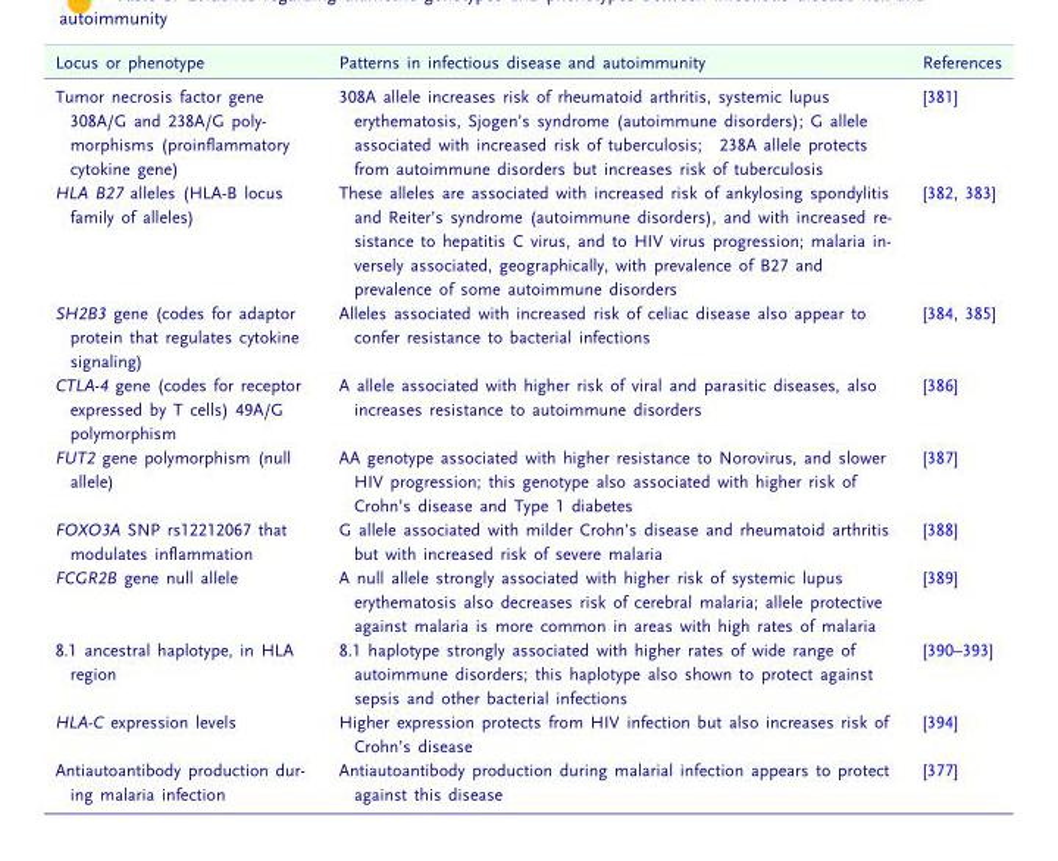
<table><thead><tr><td>Locus or phenotype</td><td>Patterns in infectious disease and autoimmunity</td><td>References</td></tr></thead><tbody><tr><td>Tumor necrosis factor gene 308A/G and 238A/G poly- morphisms (proinflammatory cytokine gene)</td><td>308A allele increases risk of rheumatoid arthritis, systemic lupus erythematosis, Sjogen’s syndrome (autoimmune disorders); G allele associated with increased risk of tuberculosis; 238A allele protects from autoimmune disorders but increases risk of tuberculosis</td><td>[381]</td></tr><tr><td>HLA B27 alleles (HLA-B locus family of alleles)</td><td>These alleles are associated with increased risk of ankylosing spondylitis and Reiter’s syndrome (autoimmune disorders), and with increased re- sistance to hepatitis C virus, and to HIV virus progression; malaria in- versely associated, geographically, with prevalence of B27 and prevalence of some autoimmune disorders</td><td>[382, 383]</td></tr><tr><td>SH2B3 gene (codes for adaptor protein that regulates cytokine signaling)</td><td>Alleles associated with increased risk of celiac disease also appear to confer resistance to bacterial infections</td><td>[384, 385]</td></tr><tr><td>CTLA-4 gene (codes for receptor expressed by T cells) 49A/G polymorphism</td><td>A allele associated with higher risk of viral and parasitic diseases, also increases resistance to autoimmune disorders</td><td>[386]</td></tr><tr><td>FUT2 gene polymorphism (null allele)</td><td>AA genotype associated with higher resistance to Norovirus, and slower HIV progression; this genotype also associated with higher risk of Crohn’s disease and Type 1 diabetes</td><td>[387]</td></tr><tr><td>FOXO3A SNP rs12212067 that modulates inflammation</td><td>G allele associated with milder Crohn’s disease and rheumatoid arthritis but with increased risk of severe malaria</td><td>[388]</td></tr><tr><td>FCGR2B gene null allele</td><td>A null allele strongly associated with higher risk of systemic lupus erythematosis also decreases risk of cerebral malaria; allele protective against malaria is more common in areas with high rates of malaria</td><td>[389]</td></tr><tr><td>8.1 ancestral haplotype, in HLA region</td><td>8.1 haplotype strongly associated with higher rates of wide range of autoimmune disorders; this haplotype also shown to protect against sepsis and other bacterial infections</td><td>[390–393]</td></tr><tr><td>HLA-C expression levels</td><td>Higher expression protects from HIV infection but also increases risk of Crohn’s disease</td><td>[394]</td></tr><tr><td>Antiautoantibody production dur- ing malaria infection</td><td>Antiautoantibody production during malarial infection appears to protect against this disease</td><td>[377]</td></tr></tbody></table>